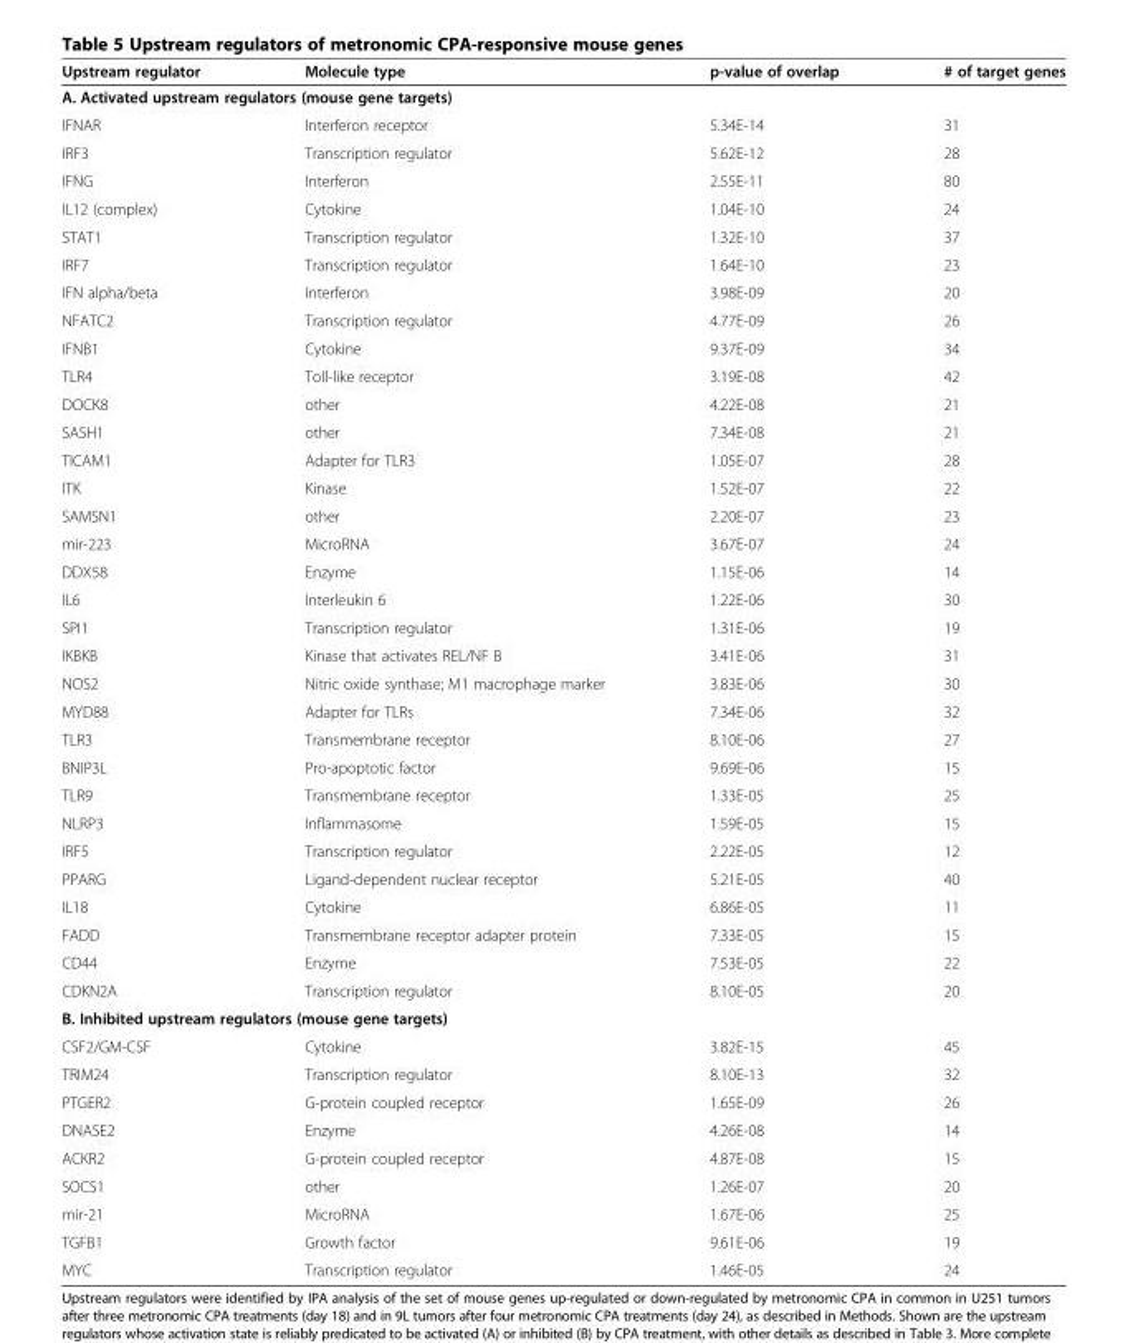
<table><thead><tr><td>Upstream regulator</td><td>Molecule type</td><td>p-value of overlap</td><td># of target genes</td></tr></thead><tbody><tr><td colspan="4">A. Activated upstream regulators (mouse gene targets)</td></tr><tr><td>IFNAR</td><td>Interferon receptor</td><td>5.34E-14</td><td>31</td></tr><tr><td>IRF3</td><td>Transcription regulator</td><td>5.62E-12</td><td>28</td></tr><tr><td>IFNG</td><td>Interferon</td><td>2.55E-11</td><td>80</td></tr><tr><td>IL12 (complex)</td><td>Cytokine</td><td>1.04E-10</td><td>24</td></tr><tr><td>STAT1</td><td>Transcription regulator</td><td>1.32E-10</td><td>37</td></tr><tr><td>IRF7</td><td>Transcription regulator</td><td>1.64E-10</td><td>23</td></tr><tr><td>IFN alpha/beta</td><td>Interferon</td><td>3.98E-09</td><td>20</td></tr><tr><td>NFATC2</td><td>Transcription regulator</td><td>4.77E-09</td><td>26</td></tr><tr><td>IFNB1</td><td>Cytokine</td><td>9.37E-09</td><td>34</td></tr><tr><td>TLR4</td><td>Toll-like receptor</td><td>3.19E-08</td><td>42</td></tr><tr><td>DOCK8</td><td>other</td><td>4.22E-08</td><td>21</td></tr><tr><td>SASH1</td><td>other</td><td>7.34E-08</td><td>21</td></tr><tr><td>TICAM1</td><td>Adapter for TLR3</td><td>1.05E-07</td><td>28</td></tr><tr><td>ITK</td><td>Kinase</td><td>1.52E-07</td><td>22</td></tr><tr><td>SAMSN1</td><td>other</td><td>2.20E-07</td><td>23</td></tr><tr><td>mir-223</td><td>MicroRNA</td><td>3.67E-07</td><td>24</td></tr><tr><td>DDX58</td><td>Enzyme</td><td>1.15E-06</td><td>14</td></tr><tr><td>IL6</td><td>Interleukin 6</td><td>1.22E-06</td><td>30</td></tr><tr><td>SPI1</td><td>Transcription regulator</td><td>1.31E-06</td><td>19</td></tr><tr><td>IKBKB</td><td>Kinase that activates REL/NF B</td><td>3.41E-06</td><td>31</td></tr><tr><td>NOS2</td><td>Nitric oxide synthase; M1 macrophage marker</td><td>3.83E-06</td><td>30</td></tr><tr><td>MYD88</td><td>Adapter for TLRs</td><td>7.34E-06</td><td>32</td></tr><tr><td>TLR3</td><td>Transmembrane receptor</td><td>8.10E-06</td><td>27</td></tr><tr><td>BNIP3L</td><td>Pro-apoptotic factor</td><td>9.69E-06</td><td>15</td></tr><tr><td>TLR9</td><td>Transmembrane receptor</td><td>1.33E-05</td><td>25</td></tr><tr><td>NLRP3</td><td>Inflammasome</td><td>1.59E-05</td><td>15</td></tr><tr><td>IRF5</td><td>Transcription regulator</td><td>2.22E-05</td><td>12</td></tr><tr><td>PPARG</td><td>Ligand-dependent nuclear receptor</td><td>5.21E-05</td><td>40</td></tr><tr><td>IL18</td><td>Cytokine</td><td>6.86E-05</td><td>11</td></tr><tr><td>FADD</td><td>Transmembrane receptor adapter protein</td><td>7.33E-05</td><td>15</td></tr><tr><td>CD44</td><td>Enzyme</td><td>7.53E-05</td><td>22</td></tr><tr><td>CDKN2A</td><td>Transcription regulator</td><td>8.10E-05</td><td>20</td></tr><tr><td colspan="4">B. Inhibited upstream regulators (mouse gene targets)</td></tr><tr><td>CSF2/GM-CSF</td><td>Cytokine</td><td>3.82E-15</td><td>45</td></tr><tr><td>TRIM24</td><td>Transcription regulator</td><td>8.10E-13</td><td>32</td></tr><tr><td>PTGER2</td><td>G-protein coupled receptor</td><td>1.65E-09</td><td>26</td></tr><tr><td>DNASE2</td><td>Enzyme</td><td>4.26E-08</td><td>14</td></tr><tr><td>ACKR2</td><td>G-protein coupled receptor</td><td>4.87E-08</td><td>15</td></tr><tr><td>SOCS1</td><td>other</td><td>1.26E-07</td><td>20</td></tr><tr><td>mir-21</td><td>MicroRNA</td><td>1.67E-06</td><td>25</td></tr><tr><td>TGFB1</td><td>Growth factor</td><td>9.61E-06</td><td>19</td></tr><tr><td>MYC</td><td>Transcription regulator</td><td>1.46E-05</td><td>24</td></tr></tbody></table>